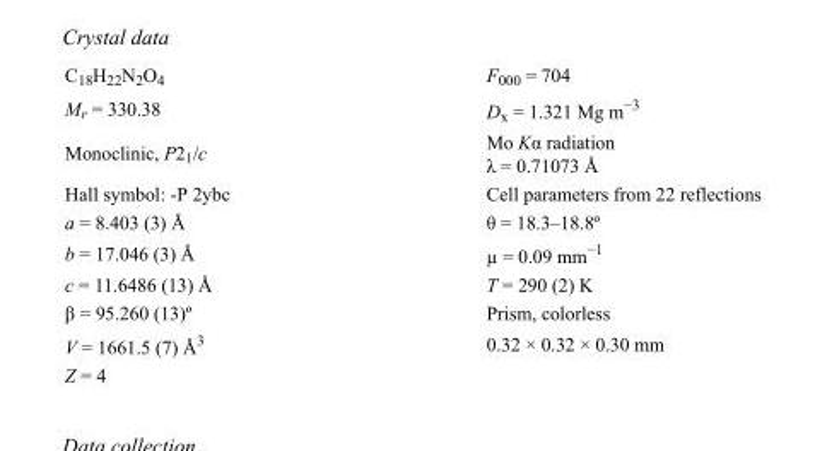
<table><tbody><tr><td>C<sub>18</sub>H<sub>22</sub>N<sub>2</sub>O<sub>4</sub></td><td>F<sub>000</sub> = 704</td></tr><tr><td>M<sub>r</sub> = 330.38</td><td>D<sub>x</sub> = 1.321 Mg m<sup>−3</sup></td></tr><tr><td>Monoclinic, P2<sub>1</sub>/c</td><td>Mo Kα radiation λ = 0.71073 Å</td></tr><tr><td>Hall symbol: -P 2ybc</td><td>Cell parameters from 22 reflections</td></tr><tr><td>a = 8.403 (3) Å</td><td>θ = 18.3–18.8º</td></tr><tr><td>b = 17.046 (3) Å</td><td>µ = 0.09 mm<sup>−1</sup></td></tr><tr><td>c = 11.6486 (13) Å</td><td>T = 290 (2) K</td></tr><tr><td>β = 95.260 (13)º</td><td>Prism, colorless</td></tr><tr><td>V = 1661.5 (7) Å<sup>3</sup></td><td>0.32 × 0.32 × 0.30 mm</td></tr><tr><td>Z = 4</td><td></td></tr></tbody></table>